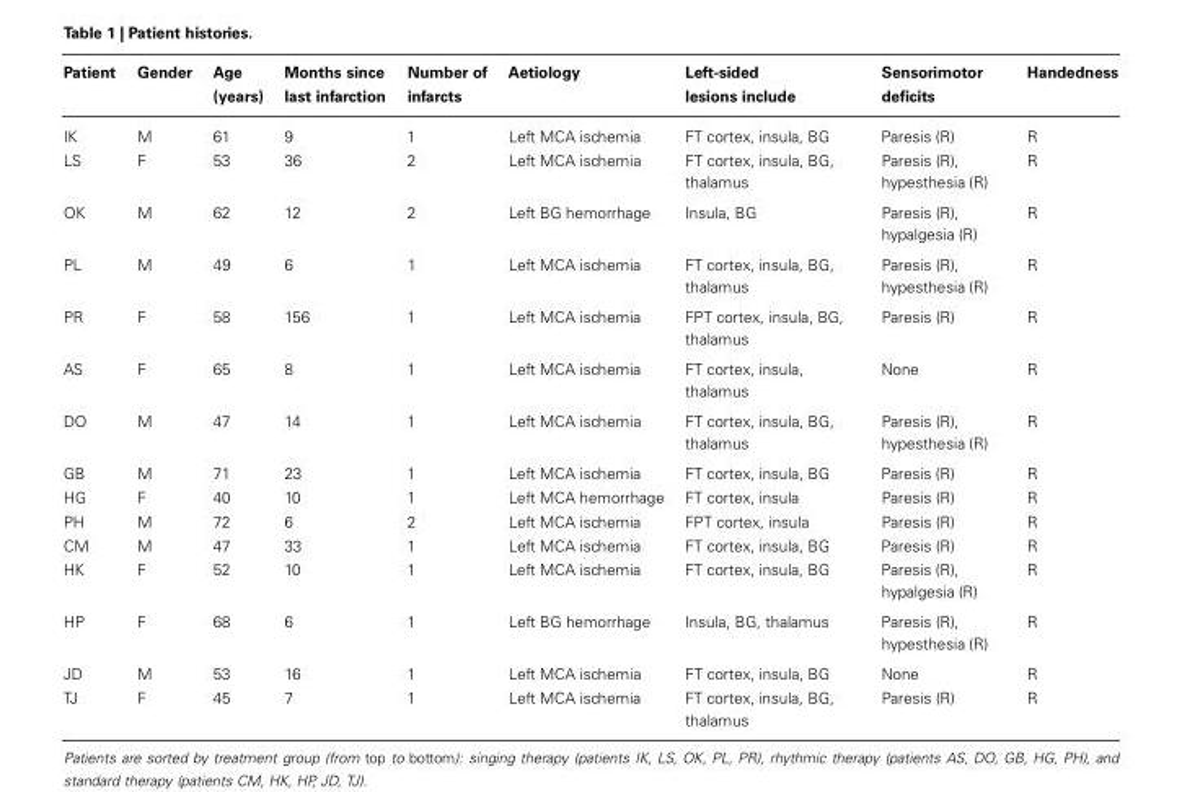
<table><thead><tr><td rowspan="2">Patient</td><td rowspan="2">Gender</td><td rowspan="2">Age (years)</td><td rowspan="2">Months since last infarction</td><td rowspan="2">Number of infarcts</td><td rowspan="2">Aetiology</td><td rowspan="2">Left-sided lesions include</td><td rowspan="2">Sensorimotor deficits</td><td rowspan="2">Handedness</td></tr><tr></tr></thead><tbody><tr><td>IK</td><td>M</td><td>61</td><td>9</td><td>1</td><td>Left MCA ischemia</td><td>FT cortex, insula, BG</td><td>Paresis (R)</td><td>R</td></tr><tr><td>LS</td><td>F</td><td>53</td><td>36</td><td>2</td><td>Left MCA ischemia</td><td>FT cortex, insula, BG, thalamus</td><td>Paresis (R), hypesthesia (R)</td><td>R</td></tr><tr><td>OK</td><td>M</td><td>62</td><td>12</td><td>2</td><td>Left BG hemorrhage</td><td>Insula, BG</td><td>Paresis (R), hypalgesia (R)</td><td>R</td></tr><tr><td>PL</td><td>M</td><td>49</td><td>6</td><td>1</td><td>Left MCA ischemia</td><td>FT cortex, insula, BG, thalamus</td><td>Paresis (R), hypesthesia (R)</td><td>R</td></tr><tr><td>PR</td><td>F</td><td>58</td><td>156</td><td>1</td><td>Left MCA ischemia</td><td>FPT cortex, insula, BG, thalamus</td><td>Paresis (R)</td><td>R</td></tr><tr><td>AS</td><td>F</td><td>65</td><td>8</td><td>1</td><td>Left MCA ischemia</td><td>FT cortex, insula, thalamus</td><td>None</td><td>R</td></tr><tr><td>DO</td><td>M</td><td>47</td><td>14</td><td>1</td><td>Left MCA ischemia</td><td>FT cortex, insula, BG, thalamus</td><td>Paresis (R), hypesthesia (R)</td><td>R</td></tr><tr><td>GB</td><td>M</td><td>71</td><td>23</td><td>1</td><td>Left MCA ischemia</td><td>FT cortex, insula, BG</td><td>Paresis (R)</td><td>R</td></tr><tr><td>HG</td><td>F</td><td>40</td><td>10</td><td>1</td><td>Left MCA hemorrhage</td><td>FT cortex, insula</td><td>Paresis (R)</td><td>R</td></tr><tr><td>PH</td><td>M</td><td>72</td><td>6</td><td>2</td><td>Left MCA ischemia</td><td>FPT cortex, insula</td><td>Paresis (R)</td><td>R</td></tr><tr><td>CM</td><td>M</td><td>47</td><td>33</td><td>1</td><td>Left MCA ischemia</td><td>FT cortex, insula, BG</td><td>Paresis (R)</td><td>R</td></tr><tr><td>HK</td><td>F</td><td>52</td><td>10</td><td>1</td><td>Left MCA ischemia</td><td>FT cortex, insula, BG</td><td>Paresis (R), hypalgesia (R)</td><td>R</td></tr><tr><td>HP</td><td>F</td><td>68</td><td>6</td><td>1</td><td>Left BG hemorrhage</td><td>Insula, BG, thalamus</td><td>Paresis (R), hypesthesia (R)</td><td>R</td></tr><tr><td>JD</td><td>M</td><td>53</td><td>16</td><td>1</td><td>Left MCA ischemia</td><td>FT cortex, insula, BG</td><td>None</td><td>R</td></tr><tr><td>TJ</td><td>F</td><td>45</td><td>7</td><td>1</td><td>Left MCA ischemia</td><td>FT cortex, insula, BG, thalamus</td><td>Paresis (R)</td><td>R</td></tr></tbody></table>